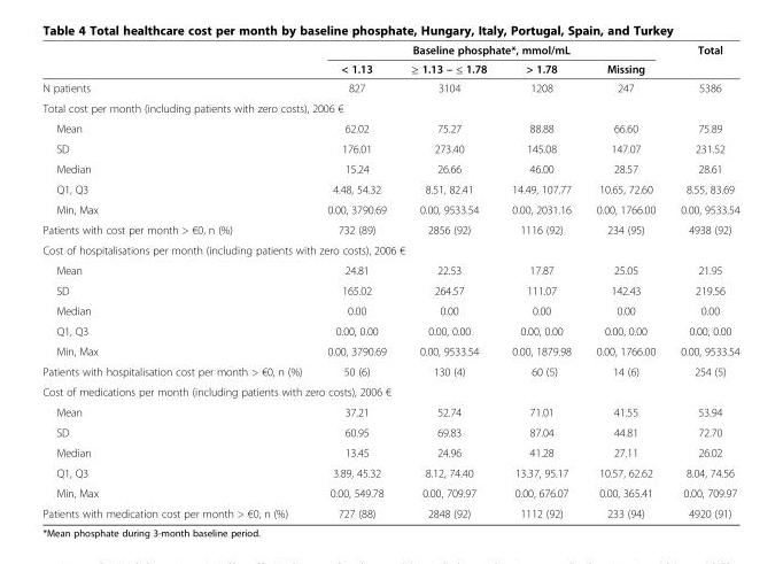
<table><thead><tr><td rowspan="2"></td><td colspan="4">Baseline phosphate*, mmol/mL</td><td rowspan="2">Total</td></tr><tr><td>&lt; 1.13</td><td>≥ 1.13 – ≤ 1.78</td><td>&gt; 1.78</td><td>Missing</td></tr></thead><tbody><tr><td>N patients</td><td>827</td><td>3104</td><td>1208</td><td>247</td><td>5386</td></tr><tr><td colspan="6">Total cost per month (including patients with zero costs), 2006 €</td></tr><tr><td>Mean</td><td>62.02</td><td>75.27</td><td>88.88</td><td>66.60</td><td>75.89</td></tr><tr><td>SD</td><td>176.01</td><td>273.40</td><td>145.08</td><td>147.07</td><td>231.52</td></tr><tr><td>Median</td><td>15.24</td><td>26.66</td><td>46.00</td><td>28.57</td><td>28.61</td></tr><tr><td>Q1, Q3</td><td>4.48, 54.32</td><td>8.51, 82.41</td><td>14.49, 107.77</td><td>10.65, 72.60</td><td>8.55, 83.69</td></tr><tr><td>Min, Max</td><td>0.00, 3790.69</td><td>0.00, 9533.54</td><td>0.00, 2031.16</td><td>0.00, 1766.00</td><td>0.00, 9533.54</td></tr><tr><td>Patients with cost per month &gt; €0, n (%)</td><td>732 (89)</td><td>2856 (92)</td><td>1116 (92)</td><td>234 (95)</td><td>4938 (92)</td></tr><tr><td colspan="6">Cost of hospitalisations per month (including patients with zero costs), 2006 €</td></tr><tr><td>Mean</td><td>24.81</td><td>22.53</td><td>17.87</td><td>25.05</td><td>21.95</td></tr><tr><td>SD</td><td>165.02</td><td>264.57</td><td>111.07</td><td>142.43</td><td>219.56</td></tr><tr><td>Median</td><td>0.00</td><td>0.00</td><td>0.00</td><td>0.00</td><td>0.00</td></tr><tr><td>Q1, Q3</td><td>0.00, 0.00</td><td>0.00, 0.00</td><td>0.00, 0.00</td><td>0.00, 0.00</td><td>0.00, 0.00</td></tr><tr><td>Min, Max</td><td>0.00, 3790.69</td><td>0.00, 9533.54</td><td>0.00, 1879.98</td><td>0.00, 1766.00</td><td>0.00, 9533.54</td></tr><tr><td>Patients with hospitalisation cost per month &gt; €0, n (%)</td><td>50 (6)</td><td>130 (4)</td><td>60 (5)</td><td>14 (6)</td><td>254 (5)</td></tr><tr><td colspan="6">Cost of medications per month (including patients with zero costs), 2006 €</td></tr><tr><td>Mean</td><td>37.21</td><td>52.74</td><td>71.01</td><td>41.55</td><td>53.94</td></tr><tr><td>SD</td><td>60.95</td><td>69.83</td><td>87.04</td><td>44.81</td><td>72.70</td></tr><tr><td>Median</td><td>13.45</td><td>24.96</td><td>41.28</td><td>27.11</td><td>26.02</td></tr><tr><td>Q1, Q3</td><td>3.89, 45.32</td><td>8.12, 74.40</td><td>13.37, 95.17</td><td>10.57, 62.62</td><td>8.04, 74.56</td></tr><tr><td>Min, Max</td><td>0.00, 549.78</td><td>0.00, 709.97</td><td>0.00, 676.07</td><td>0.00, 365.41</td><td>0.00, 709.97</td></tr><tr><td>Patients with medication cost per month &gt; €0, n (%)</td><td>727 (88)</td><td>2848 (92)</td><td>1112 (92)</td><td>233 (94)</td><td>4920 (91)</td></tr></tbody></table>